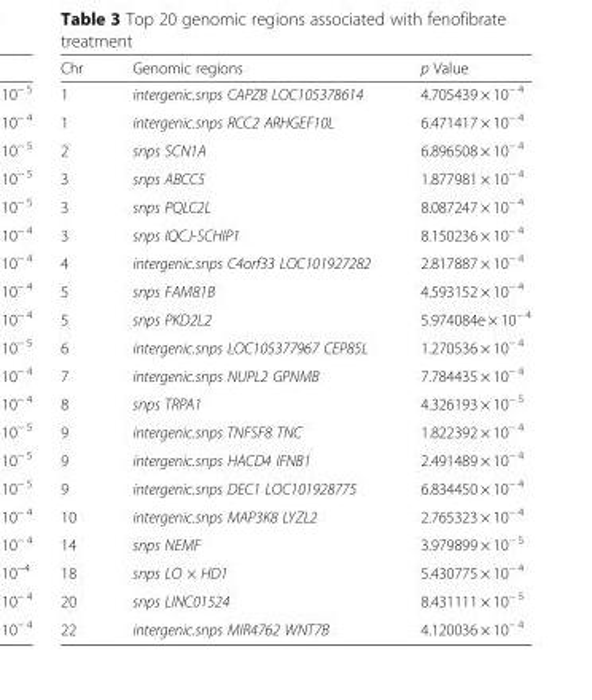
<table><thead><tr><td>Chr</td><td>Genomic regions</td><td>p Value</td></tr></thead><tbody><tr><td>1</td><td>intergenic.snps CAPZB LOC105378614</td><td>4.705439 × 10<sup>− 4</sup></td></tr><tr><td>1</td><td>intergenic.snps RCC2 ARHGEF10L</td><td>6.471417 × 10<sup>− 4</sup></td></tr><tr><td>2</td><td>snps SCN1A</td><td>6.896508 × 10<sup>− 4</sup></td></tr><tr><td>3</td><td>snps ABCC5</td><td>1.877981 × 10<sup>− 4</sup></td></tr><tr><td>3</td><td>snps PQLC2L</td><td>8.087247 × 10<sup>− 4</sup></td></tr><tr><td>3</td><td>snps IQCJ-SCHIP1</td><td>8.150236 × 10<sup>− 4</sup></td></tr><tr><td>4</td><td>intergenic.snps C4orf33 LOC101927282</td><td>2.817887 × 10<sup>− 4</sup></td></tr><tr><td>5</td><td>snps FAM81B</td><td>4.593152 × 10<sup>− 4</sup></td></tr><tr><td>5</td><td>snps PKD2L2</td><td>5.974084e × 10<sup>− 4</sup></td></tr><tr><td>6</td><td>intergenic.snps LOC105377967 CEP85L</td><td>1.270536 × 10<sup>− 4</sup></td></tr><tr><td>7</td><td>intergenic.snps NUPL2 GPNMB</td><td>7.784435 × 10<sup>− 4</sup></td></tr><tr><td>8</td><td>snps TRPA1</td><td>4.326193 × 10<sup>− 5</sup></td></tr><tr><td>9</td><td>intergenic.snps TNFSF8 TNC</td><td>1.822392 × 10<sup>− 4</sup></td></tr><tr><td>9</td><td>intergenic.snps HACD4 IFNB1</td><td>2.491489 × 10<sup>− 4</sup></td></tr><tr><td>9</td><td>intergenic.snps DEC1 LOC101928775</td><td>6.834450 × 10<sup>− 4</sup></td></tr><tr><td>10</td><td>intergenic.snps MAP3K8 LYZL2</td><td>2.765323 × 10<sup>− 4</sup></td></tr><tr><td>14</td><td>snps NEMF</td><td>3.979899 × 10<sup>− 5</sup></td></tr><tr><td>18</td><td>snps LO × HD1</td><td>5.430775 × 10<sup>− 4</sup></td></tr><tr><td>20</td><td>snps LINC01524</td><td>8.431111 × 10<sup>− 5</sup></td></tr><tr><td>22</td><td>intergenic.snps MIR4762 WNT7B</td><td>4.120036 × 10<sup>− 4</sup></td></tr></tbody></table>